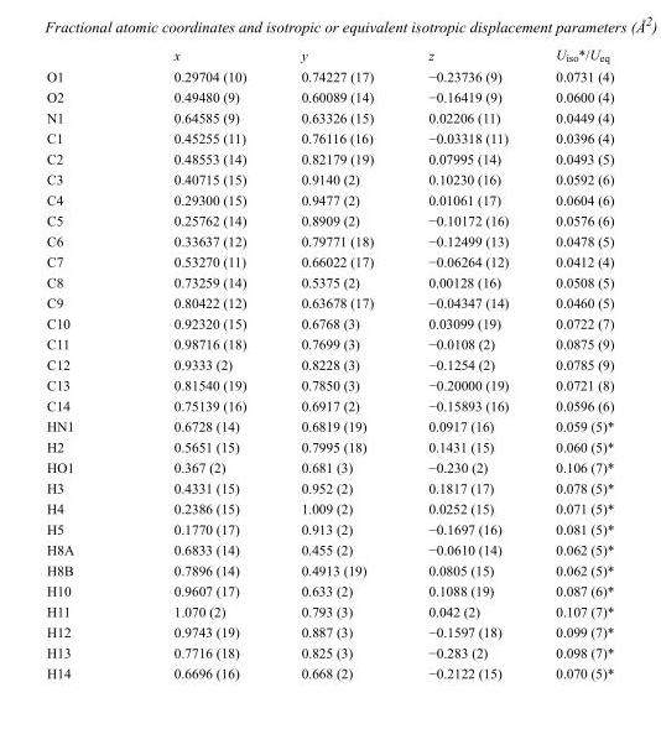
<table><thead><tr><td></td><td>x</td><td>y</td><td>z</td><td>U<sub>iso</sub>*/U<sub>eq</sub></td></tr></thead><tbody><tr><td>O1</td><td>0.29704 (10)</td><td>0.74227 (17)</td><td>−0.23736 (9)</td><td>0.0731 (4)</td></tr><tr><td>O2</td><td>0.49480 (9)</td><td>0.60089 (14)</td><td>−0.16419 (9)</td><td>0.0600 (4)</td></tr><tr><td>N1</td><td>0.64585 (9)</td><td>0.63326 (15)</td><td>0.02206 (11)</td><td>0.0449 (4)</td></tr><tr><td>C1</td><td>0.45255 (11)</td><td>0.76116 (16)</td><td>−0.03318 (11)</td><td>0.0396 (4)</td></tr><tr><td>C2</td><td>0.48553 (14)</td><td>0.82179 (19)</td><td>0.07995 (14)</td><td>0.0493 (5)</td></tr><tr><td>C3</td><td>0.40715 (15)</td><td>0.9140 (2)</td><td>0.10230 (16)</td><td>0.0592 (6)</td></tr><tr><td>C4</td><td>0.29300 (15)</td><td>0.9477 (2)</td><td>0.01061 (17)</td><td>0.0604 (6)</td></tr><tr><td>C5</td><td>0.25762 (14)</td><td>0.8909 (2)</td><td>−0.10172 (16)</td><td>0.0576 (6)</td></tr><tr><td>C6</td><td>0.33637 (12)</td><td>0.79771 (18)</td><td>−0.12499 (13)</td><td>0.0478 (5)</td></tr><tr><td>C7</td><td>0.53270 (11)</td><td>0.66022 (17)</td><td>−0.06264 (12)</td><td>0.0412 (4)</td></tr><tr><td>C8</td><td>0.73259 (14)</td><td>0.5375 (2)</td><td>0.00128 (16)</td><td>0.0508 (5)</td></tr><tr><td>C9</td><td>0.80422 (12)</td><td>0.63678 (17)</td><td>−0.04347 (14)</td><td>0.0460 (5)</td></tr><tr><td>C10</td><td>0.92320 (15)</td><td>0.6768 (3)</td><td>0.03099 (19)</td><td>0.0722 (7)</td></tr><tr><td>C11</td><td>0.98716 (18)</td><td>0.7699 (3)</td><td>−0.0108 (2)</td><td>0.0875 (9)</td></tr><tr><td>C12</td><td>0.9333 (2)</td><td>0.8228 (3)</td><td>−0.1254 (2)</td><td>0.0785 (9)</td></tr><tr><td>C13</td><td>0.81540 (19)</td><td>0.7850 (3)</td><td>−0.20000 (19)</td><td>0.0721 (8)</td></tr><tr><td>C14</td><td>0.75139 (16)</td><td>0.6917 (2)</td><td>−0.15893 (16)</td><td>0.0596 (6)</td></tr><tr><td>HN1</td><td>0.6728 (14)</td><td>0.6819 (19)</td><td>0.0917 (16)</td><td>0.059 (5)*</td></tr><tr><td>H2</td><td>0.5651 (15)</td><td>0.7995 (18)</td><td>0.1431 (15)</td><td>0.060 (5)*</td></tr><tr><td>HO1</td><td>0.367 (2)</td><td>0.681 (3)</td><td>−0.230 (2)</td><td>0.106 (7)*</td></tr><tr><td>H3</td><td>0.4331 (15)</td><td>0.952 (2)</td><td>0.1817 (17)</td><td>0.078 (5)*</td></tr><tr><td>H4</td><td>0.2386 (15)</td><td>1.009 (2)</td><td>0.0252 (15)</td><td>0.071 (5)*</td></tr><tr><td>H5</td><td>0.1770 (17)</td><td>0.913 (2)</td><td>−0.1697 (16)</td><td>0.081 (5)*</td></tr><tr><td>H8A</td><td>0.6833 (14)</td><td>0.455 (2)</td><td>−0.0610 (14)</td><td>0.062 (5)*</td></tr><tr><td>H8B</td><td>0.7896 (14)</td><td>0.4913 (19)</td><td>0.0805 (15)</td><td>0.062 (5)*</td></tr><tr><td>H10</td><td>0.9607 (17)</td><td>0.633 (2)</td><td>0.1088 (19)</td><td>0.087 (6)*</td></tr><tr><td>H11</td><td>1.070 (2)</td><td>0.793 (3)</td><td>0.042 (2)</td><td>0.107 (7)*</td></tr><tr><td>H12</td><td>0.9743 (19)</td><td>0.887 (3)</td><td>−0.1597 (18)</td><td>0.099 (7)*</td></tr><tr><td>H13</td><td>0.7716 (18)</td><td>0.825 (3)</td><td>−0.283 (2)</td><td>0.098 (7)*</td></tr><tr><td>H14</td><td>0.6696 (16)</td><td>0.668 (2)</td><td>−0.2122 (15)</td><td>0.070 (5)*</td></tr></tbody></table>